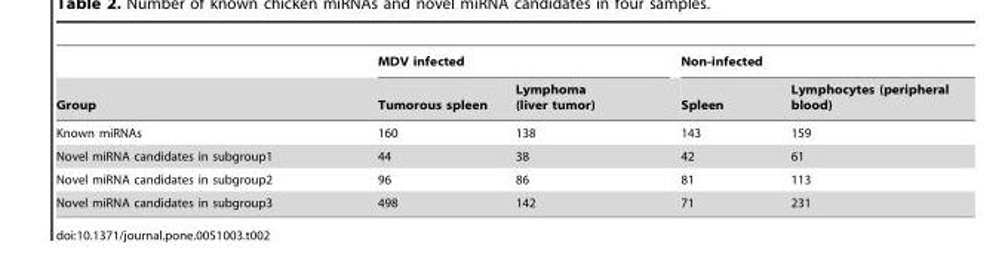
<table><thead><tr><td rowspan="2">Group</td><td colspan="2">MDV infected</td><td colspan="2">Non-infected</td></tr><tr><td>Tumorous spleen</td><td>Lymphoma (liver tumor)</td><td>Spleen</td><td>Lymphocytes (peripheral blood)</td></tr></thead><tbody><tr><td>Known miRNAs</td><td>160</td><td>138</td><td>143</td><td>159</td></tr><tr><td>Novel miRNA candidates in subgroup1</td><td>44</td><td>38</td><td>42</td><td>61</td></tr><tr><td>Novel miRNA candidates in subgroup2</td><td>96</td><td>86</td><td>81</td><td>113</td></tr><tr><td>Novel miRNA candidates in subgroup3</td><td>498</td><td>142</td><td>71</td><td>231</td></tr></tbody></table>